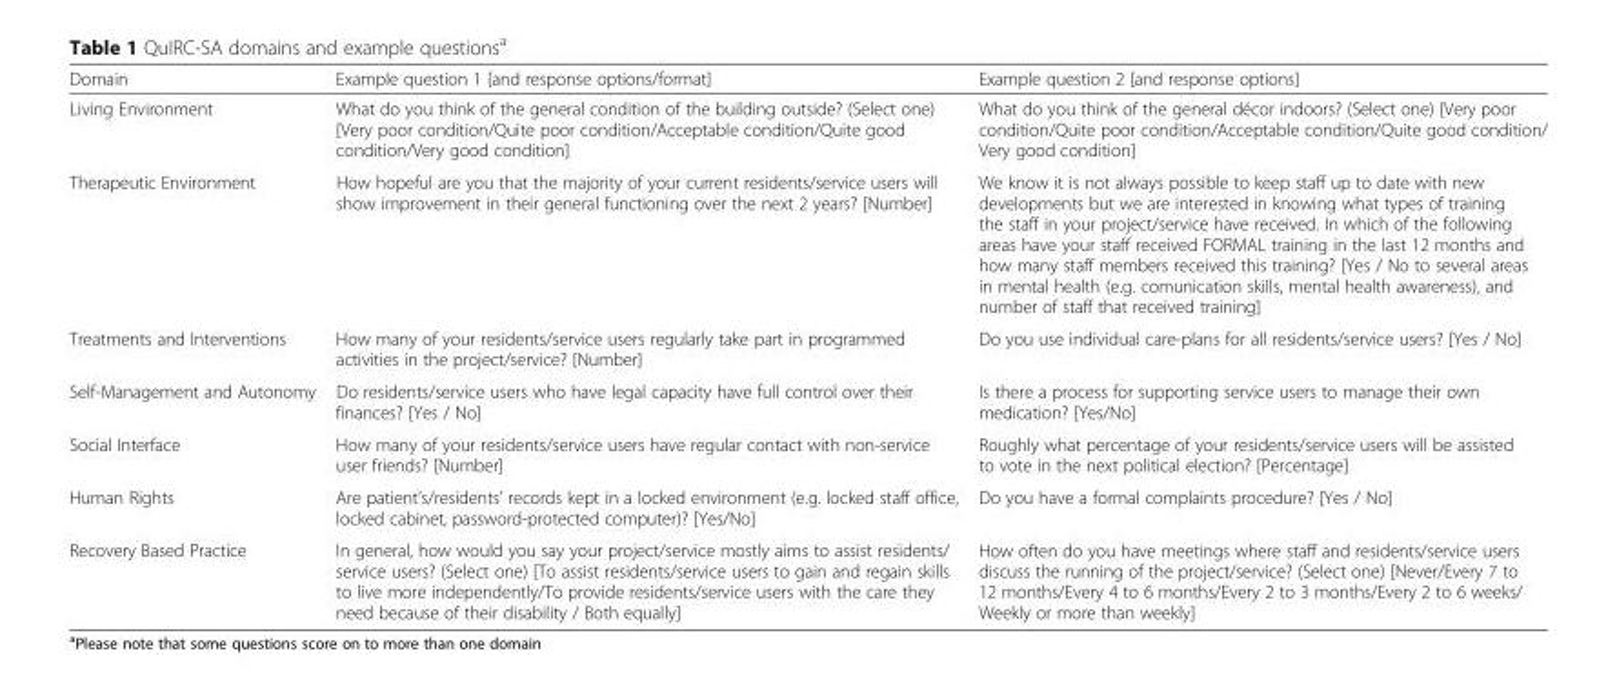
<table><thead><tr><td>Domain</td><td>Example question 1 [and response options/format]</td><td>Example question 2 [and response options]</td></tr></thead><tbody><tr><td>Living Environment</td><td>What do you think of the general condition of the building outside? (Select one) [Very poor condition/Quite poor condition/Acceptable condition/Quite good condition/Very good condition]</td><td>What do you think of the general décor indoors? (Select one) [Very poor condition/Quite poor condition/Acceptable condition/Quite good condition/ Very good condition]</td></tr><tr><td>Therapeutic Environment</td><td>How hopeful are you that the majority of your current residents/service users will show improvement in their general functioning over the next 2 years? [Number]</td><td>We know it is not always possible to keep staff up to date with new developments but we are interested in knowing what types of training the staff in your project/service have received. In which of the following areas have your staff received FORMAL training in the last 12 months and how many staff members received this training? [Yes / No to several areas in mental health (e.g. comunication skills, mental health awareness), and number of staff that received training]</td></tr><tr><td>Treatments and Interventions</td><td>How many of your residents/service users regularly take part in programmed activities in the project/service? [Number]</td><td>Do you use individual care-plans for all residents/service users? [Yes / No]</td></tr><tr><td>Self-Management and Autonomy</td><td>Do residents/service users who have legal capacity have full control over their finances? [Yes / No]</td><td>Is there a process for supporting service users to manage their own medication? [Yes/No]</td></tr><tr><td>Social Interface</td><td>How many of your residents/service users have regular contact with non-service user friends? [Number]</td><td>Roughly what percentage of your residents/service users will be assisted to vote in the next political election? [Percentage]</td></tr><tr><td>Human Rights</td><td>Are patient’s/residents’ records kept in a locked environment (e.g. locked staff office, locked cabinet, password-protected computer)? [Yes/No]</td><td>Do you have a formal complaints procedure? [Yes / No]</td></tr><tr><td>Recovery Based Practice</td><td>In general, how would you say your project/service mostly aims to assist residents/ service users? (Select one) [To assist residents/service users to gain and regain skills to live more independently/To provide residents/service users with the care they need because of their disability / Both equally]</td><td>How often do you have meetings where staff and residents/service users discuss the running of the project/service? (Select one) [Never/Every 7 to 12 months/Every 4 to 6 months/Every 2 to 3 months/Every 2 to 6 weeks/ Weekly or more than weekly]</td></tr></tbody></table>